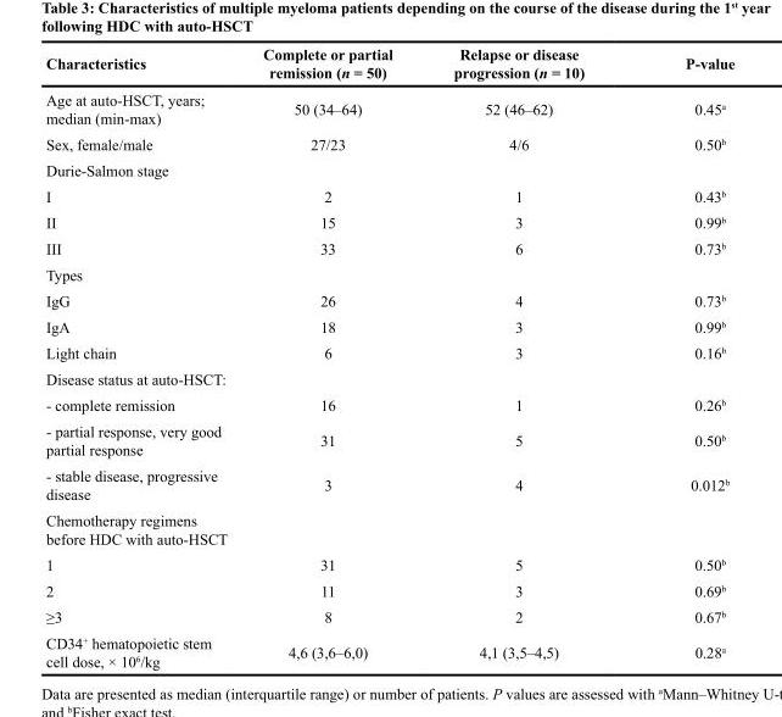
<table><thead><tr><td>Characteristics</td><td>Complete or partial remission (n = 50)</td><td>Relapse or disease progression (n = 10)</td><td>P-value</td></tr></thead><tbody><tr><td>Age at auto-HSCT, years; median (min-max)</td><td>50 (34–64)</td><td>52 (46–62)</td><td>0.45<sup>a</sup></td></tr><tr><td>Sex, female/male</td><td>27/23</td><td>4/6</td><td>0.50<sup>b</sup></td></tr><tr><td colspan="4">Durie-Salmon stage</td></tr><tr><td>I</td><td>2</td><td>1</td><td>0.43<sup>b</sup></td></tr><tr><td>II</td><td>15</td><td>3</td><td>0.99<sup>b</sup></td></tr><tr><td>III</td><td>33</td><td>6</td><td>0.73<sup>b</sup></td></tr><tr><td colspan="4">Types</td></tr><tr><td>IgG</td><td>26</td><td>4</td><td>0.73<sup>b</sup></td></tr><tr><td>IgA</td><td>18</td><td>3</td><td>0.99<sup>b</sup></td></tr><tr><td>Light chain</td><td>6</td><td>3</td><td>0.16<sup>b</sup></td></tr><tr><td colspan="4">Disease status at auto-HSCT:</td></tr><tr><td>- complete remission</td><td>16</td><td>1</td><td>0.26<sup>b</sup></td></tr><tr><td>- partial response, very good partial response</td><td>31</td><td>5</td><td>0.50<sup>b</sup></td></tr><tr><td>- stable disease, progressive disease</td><td>3</td><td>4</td><td>0.012<sup>b</sup></td></tr><tr><td colspan="4">Chemotherapy regimens before HDC with auto-HSCT</td></tr><tr><td>1</td><td>31</td><td>5</td><td>0.50<sup>b</sup></td></tr><tr><td>2</td><td>11</td><td>3</td><td>0.69<sup>b</sup></td></tr><tr><td>≥3</td><td>8</td><td>2</td><td>0.67<sup>b</sup></td></tr><tr><td>CD34<sup>+</sup> hematopoietic stem cell dose, × 10<sup>6</sup>/kg</td><td>4,6 (3,6–6,0)</td><td>4,1 (3,5–4,5)</td><td>0.28<sup>a</sup></td></tr></tbody></table>